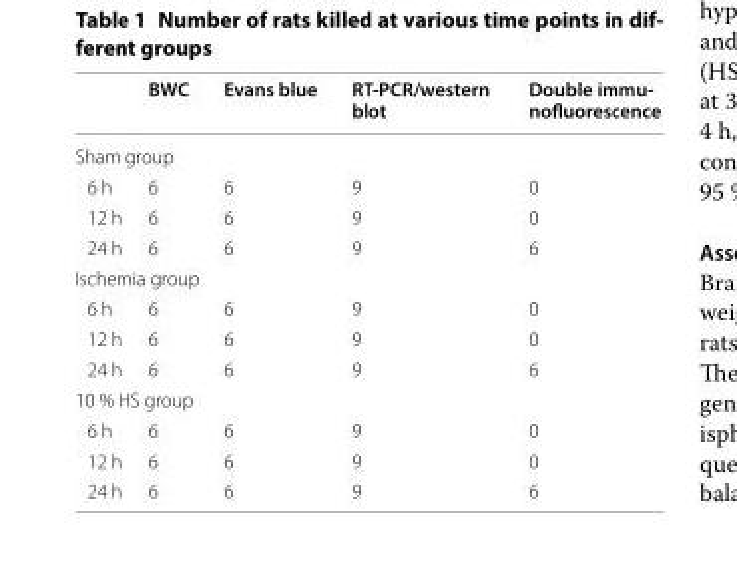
<table><thead><tr><td></td><td>BWC</td><td>Evans blue</td><td>RT-PCR/western blot</td><td>Double immu- nofluorescence</td></tr></thead><tbody><tr><td colspan="5">Sham group</td></tr><tr><td>6 h</td><td>6</td><td>6</td><td>9</td><td>0</td></tr><tr><td>12 h</td><td>6</td><td>6</td><td>9</td><td>0</td></tr><tr><td>24 h</td><td>6</td><td>6</td><td>9</td><td>6</td></tr><tr><td colspan="5">Ischemia group</td></tr><tr><td>6 h</td><td>6</td><td>6</td><td>9</td><td>0</td></tr><tr><td>12 h</td><td>6</td><td>6</td><td>9</td><td>0</td></tr><tr><td>24 h</td><td>6</td><td>6</td><td>9</td><td>6</td></tr><tr><td colspan="5">10 % HS group</td></tr><tr><td>6 h</td><td>6</td><td>6</td><td>9</td><td>0</td></tr><tr><td>12 h</td><td>6</td><td>6</td><td>9</td><td>0</td></tr><tr><td>24 h</td><td>6</td><td>6</td><td>9</td><td>6</td></tr></tbody></table>